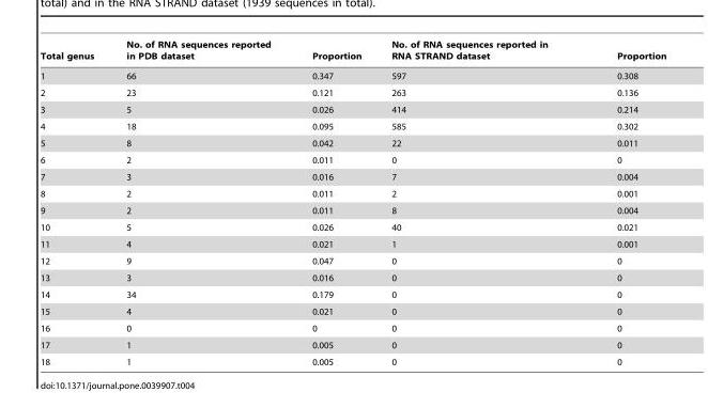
<table><thead><tr><td>Total genus</td><td>No. of RNA sequences reported in PDB dataset</td><td>Proportion</td><td>No. of RNA sequences reported in RNA STRAND dataset</td><td>Proportion</td></tr></thead><tbody><tr><td>1</td><td>66</td><td>0.347</td><td>597</td><td>0.308</td></tr><tr><td>2</td><td>23</td><td>0.121</td><td>263</td><td>0.136</td></tr><tr><td>3</td><td>5</td><td>0.026</td><td>414</td><td>0.214</td></tr><tr><td>4</td><td>18</td><td>0.095</td><td>585</td><td>0.302</td></tr><tr><td>5</td><td>8</td><td>0.042</td><td>22</td><td>0.011</td></tr><tr><td>6</td><td>2</td><td>0.011</td><td>0</td><td>0</td></tr><tr><td>7</td><td>3</td><td>0.016</td><td>7</td><td>0.004</td></tr><tr><td>8</td><td>2</td><td>0.011</td><td>2</td><td>0.001</td></tr><tr><td>9</td><td>2</td><td>0.011</td><td>8</td><td>0.004</td></tr><tr><td>10</td><td>5</td><td>0.026</td><td>40</td><td>0.021</td></tr><tr><td>11</td><td>4</td><td>0.021</td><td>1</td><td>0.001</td></tr><tr><td>12</td><td>9</td><td>0.047</td><td>0</td><td>0</td></tr><tr><td>13</td><td>3</td><td>0.016</td><td>0</td><td>0</td></tr><tr><td>14</td><td>34</td><td>0.179</td><td>0</td><td>0</td></tr><tr><td>15</td><td>4</td><td>0.021</td><td>0</td><td>0</td></tr><tr><td>16</td><td>0</td><td>0</td><td>0</td><td>0</td></tr><tr><td>17</td><td>1</td><td>0.005</td><td>0</td><td>0</td></tr><tr><td>18</td><td>1</td><td>0.005</td><td>0</td><td>0</td></tr></tbody></table>